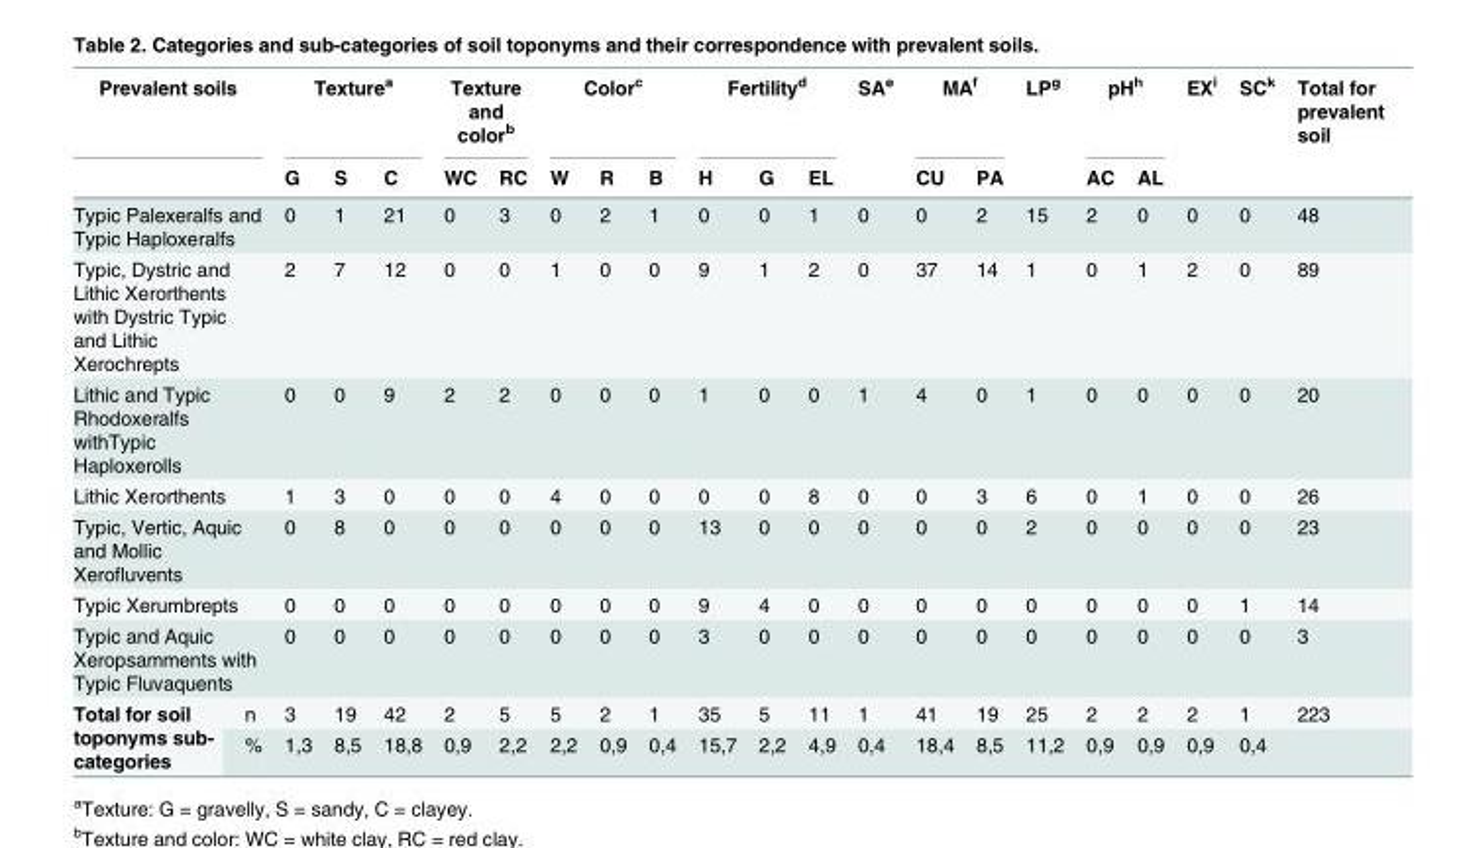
<table><thead><tr><td colspan="2">Prevalent soils</td><td colspan="3">Texture<sup>a</sup></td><td colspan="2">Texture and color<sup>b</sup></td><td colspan="3">Color<sup>c</sup></td><td colspan="3">Fertility<sup>d</sup></td><td rowspan="2">SA<sup>e</sup></td><td colspan="2">MA<sup>f</sup></td><td rowspan="2">LP<sup>g</sup></td><td colspan="2">pH<sup>h</sup></td><td rowspan="2">EX<sup>i</sup></td><td rowspan="2">SC<sup>k</sup></td><td rowspan="2">Total for prevalent soil</td></tr><tr><td></td><td></td><td>G</td><td>S</td><td>C</td><td>WC</td><td>RC</td><td>W</td><td>R</td><td>B</td><td>H</td><td>G</td><td>EL</td><td>CU</td><td>PA</td><td>AC</td><td>AL</td></tr></thead><tbody><tr><td colspan="2">Typic Palexeralfs and Typic Haploxeralfs</td><td>0</td><td>1</td><td>21</td><td>0</td><td>3</td><td>0</td><td>2</td><td>1</td><td>0</td><td>0</td><td>1</td><td>0</td><td>0</td><td>2</td><td>15</td><td>2</td><td>0</td><td>0</td><td>0</td><td>48</td></tr><tr><td colspan="2">Typic, Dystric and Lithic Xerorthents with Dystric Typic and Lithic Xerochrepts</td><td>2</td><td>7</td><td>12</td><td>0</td><td>0</td><td>1</td><td>0</td><td>0</td><td>9</td><td>1</td><td>2</td><td>0</td><td>37</td><td>14</td><td>1</td><td>0</td><td>1</td><td>2</td><td>0</td><td>89</td></tr><tr><td colspan="2">Lithic and Typic Rhodoxeralfs withTypic Haploxerolls</td><td>0</td><td>0</td><td>9</td><td>2</td><td>2</td><td>0</td><td>0</td><td>0</td><td>1</td><td>0</td><td>0</td><td>1</td><td>4</td><td>0</td><td>1</td><td>0</td><td>0</td><td>0</td><td>0</td><td>20</td></tr><tr><td colspan="2">Lithic Xerorthents</td><td>1</td><td>3</td><td>0</td><td>0</td><td>0</td><td>4</td><td>0</td><td>0</td><td>0</td><td>0</td><td>8</td><td>0</td><td>0</td><td>3</td><td>6</td><td>0</td><td>1</td><td>0</td><td>0</td><td>26</td></tr><tr><td colspan="2">Typic, Vertic, Aquic and Mollic Xerofluvents</td><td>0</td><td>8</td><td>0</td><td>0</td><td>0</td><td>0</td><td>0</td><td>0</td><td>13</td><td>0</td><td>0</td><td>0</td><td>0</td><td>0</td><td>2</td><td>0</td><td>0</td><td>0</td><td>0</td><td>23</td></tr><tr><td colspan="2">Typic Xerumbrepts</td><td>0</td><td>0</td><td>0</td><td>0</td><td>0</td><td>0</td><td>0</td><td>0</td><td>9</td><td>4</td><td>0</td><td>0</td><td>0</td><td>0</td><td>0</td><td>0</td><td>0</td><td>0</td><td>1</td><td>14</td></tr><tr><td colspan="2">Typic and Aquic Xeropsamments with Typic Fluvaquents</td><td>0</td><td>0</td><td>0</td><td>0</td><td>0</td><td>0</td><td>0</td><td>0</td><td>3</td><td>0</td><td>0</td><td>0</td><td>0</td><td>0</td><td>0</td><td>0</td><td>0</td><td>0</td><td>0</td><td>3</td></tr><tr><td rowspan="2">Total for soil toponyms sub- categories</td><td>n</td><td>3</td><td>19</td><td>42</td><td>2</td><td>5</td><td>5</td><td>2</td><td>1</td><td>35</td><td>5</td><td>11</td><td>1</td><td>41</td><td>19</td><td>25</td><td>2</td><td>2</td><td>2</td><td>1</td><td>223</td></tr><tr><td>%</td><td>1,3</td><td>8,5</td><td>18,8</td><td>0,9</td><td>2,2</td><td>2,2</td><td>0,9</td><td>0,4</td><td>15,7</td><td>2,2</td><td>4,9</td><td>0,4</td><td>18,4</td><td>8,5</td><td>11,2</td><td>0,9</td><td>0,9</td><td>0,9</td><td>0,4</td><td></td></tr></tbody></table>